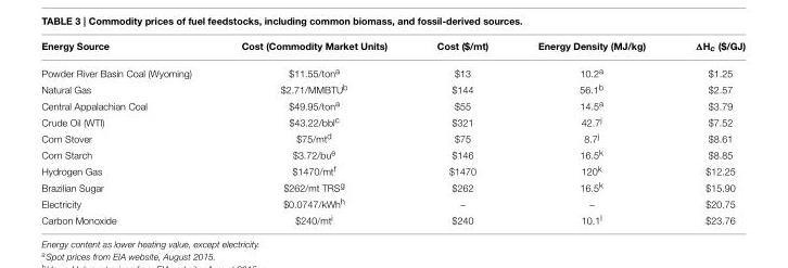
<table><thead><tr><td>Energy Source</td><td>Cost (Commodity Market Units)</td><td>Cost ($/mt)</td><td>Energy Density (MJ/kg)</td><td>ΔH<sub>c</sub> ($/GJ)</td></tr></thead><tbody><tr><td>Powder River Basin Coal (Wyoming)</td><td>$11.55/ton<sup>a</sup></td><td>$13</td><td>10.2<sup>a</sup></td><td>$1.25</td></tr><tr><td>Natural Gas</td><td>$2.71/MMBTU<sup>b</sup></td><td>$144</td><td>56.1<sup>b</sup></td><td>$2.57</td></tr><tr><td>Central Appalachian Coal</td><td>$49.95/ton<sup>a</sup></td><td>$55</td><td>14.5<sup>a</sup></td><td>$3.79</td></tr><tr><td>Crude Oil (WTI)</td><td>$43.22/bbl<sup>c</sup></td><td>$321</td><td>42.7<sup>j</sup></td><td>$7.52</td></tr><tr><td>Corn Stover</td><td>$75/mt<sup>d</sup></td><td>$75</td><td>8.7<sup>j</sup></td><td>$8.61</td></tr><tr><td>Corn Starch</td><td>$3.72/bu<sup>e</sup></td><td>$146</td><td>16.5<sup>k</sup></td><td>$8.85</td></tr><tr><td>Hydrogen Gas</td><td>$1470/mt<sup>f</sup></td><td>$1470</td><td>120<sup>k</sup></td><td>$12.25</td></tr><tr><td>Brazilian Sugar</td><td>$262/mt TRS<sup>g</sup></td><td>$262</td><td>16.5<sup>k</sup></td><td>$15.90</td></tr><tr><td>Electricity</td><td>$0.0747/kWh<sup>h</sup></td><td>–</td><td>–</td><td>$20.75</td></tr><tr><td>Carbon Monoxide</td><td>$240/mt<sup>i</sup></td><td>$240</td><td>10.1<sup>l</sup></td><td>$23.76</td></tr></tbody></table>